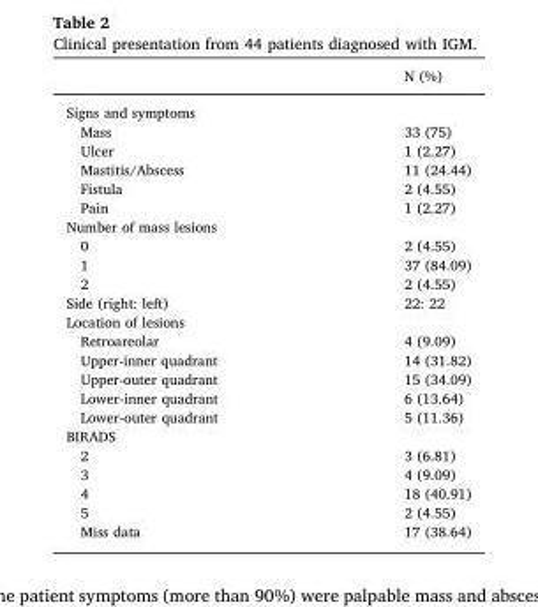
<table><thead><tr><td></td><td>N (%)</td></tr></thead><tbody><tr><td colspan="2">Signs and symptoms</td></tr><tr><td>Mass</td><td>33 (75)</td></tr><tr><td>Ulcer</td><td>1 (2.27)</td></tr><tr><td>Mastitis/Abscess</td><td>11 (24.44)</td></tr><tr><td>Fistula</td><td>2 (4.55)</td></tr><tr><td>Pain</td><td>1 (2.27)</td></tr><tr><td colspan="2">Number of mass lesions</td></tr><tr><td>0</td><td>2 (4.55)</td></tr><tr><td>1</td><td>37 (84.09)</td></tr><tr><td>2</td><td>2 (4.55)</td></tr><tr><td>Side (right: left)</td><td>22: 22</td></tr><tr><td colspan="2">Location of lesions</td></tr><tr><td>Retroareolar</td><td>4 (9.09)</td></tr><tr><td>Upper-inner quadrant</td><td>14 (31.82)</td></tr><tr><td>Upper-outer quadrant</td><td>15 (34.09)</td></tr><tr><td>Lower-inner quadrant</td><td>6 (13.64)</td></tr><tr><td>Lower-outer quadrant</td><td>5 (11.36)</td></tr><tr><td colspan="2">BIRADS</td></tr><tr><td>2</td><td>3 (6.81)</td></tr><tr><td>3</td><td>4 (9.09)</td></tr><tr><td>4</td><td>18 (40.91)</td></tr><tr><td>5</td><td>2 (4.55)</td></tr><tr><td>Miss data</td><td>17 (38.64)</td></tr></tbody></table>